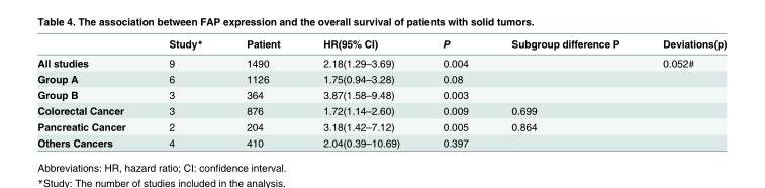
<table><thead><tr><td></td><td>Study*</td><td>Patient</td><td>HR(95% CI)</td><td>P</td><td>Subgroup difference P</td><td>Deviations(p)</td></tr></thead><tbody><tr><td>All studies</td><td>9</td><td>1490</td><td>2.18(1.29–3.69)</td><td>0.004</td><td></td><td>0.052#</td></tr><tr><td>Group A</td><td>6</td><td>1126</td><td>1.75(0.94–3.28)</td><td>0.08</td><td></td><td></td></tr><tr><td>Group B</td><td>3</td><td>364</td><td>3.87(1.58–9.48)</td><td>0.003</td><td></td><td></td></tr><tr><td>Colorectal Cancer</td><td>3</td><td>876</td><td>1.72(1.14–2.60)</td><td>0.009</td><td>0.699</td><td></td></tr><tr><td>Pancreatic Cancer</td><td>2</td><td>204</td><td>3.18(1.42–7.12)</td><td>0.005</td><td>0.864</td><td></td></tr><tr><td>Others Cancers</td><td>4</td><td>410</td><td>2.04(0.39–10.69)</td><td>0.397</td><td></td><td></td></tr></tbody></table>